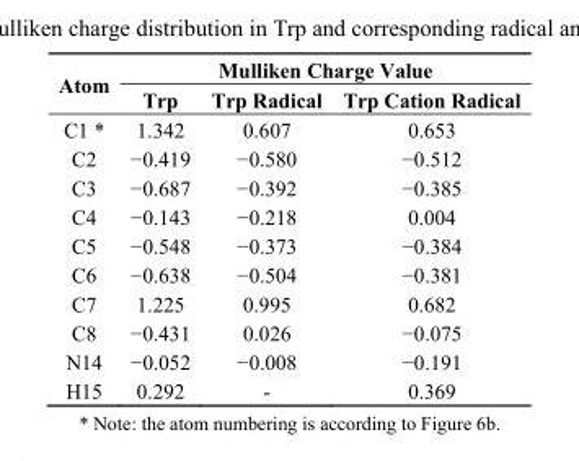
<table><thead><tr><td rowspan="2">Atom</td><td colspan="3">Mulliken Charge Value</td></tr><tr><td>Trp</td><td>Trp Radical</td><td>Trp Cation Radical</td></tr></thead><tbody><tr><td>С1 *</td><td>1.342</td><td>0.607</td><td>0.653</td></tr><tr><td>С2</td><td>−0.419</td><td>−0.580</td><td>−0.512</td></tr><tr><td>С3</td><td>−0.687</td><td>−0.392</td><td>−0.385</td></tr><tr><td>С4</td><td>−0.143</td><td>−0.218</td><td>0.004</td></tr><tr><td>С5</td><td>−0.548</td><td>−0.373</td><td>−0.384</td></tr><tr><td>С6</td><td>−0.638</td><td>−0.504</td><td>−0.381</td></tr><tr><td>C7</td><td>1.225</td><td>0.995</td><td>0.682</td></tr><tr><td>C8</td><td>−0.431</td><td>0.026</td><td>−0.075</td></tr><tr><td>N14</td><td>−0.052</td><td>−0.008</td><td>−0.191</td></tr><tr><td>H15</td><td>0.292</td><td>-</td><td>0.369</td></tr></tbody></table>